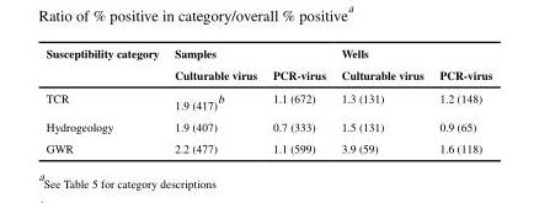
<table><thead><tr><td rowspan="2">Susceptibility category</td><td colspan="2">Samples</td><td colspan="2">Wells</td></tr><tr><td>Culturable virus</td><td>PCR-virus</td><td>Culturable virus</td><td>PCR-virus</td></tr></thead><tbody><tr><td>TCR</td><td>1.9 (417)<sup>b</sup></td><td>1.1 (672)</td><td>1.3 (131)</td><td>1.2 (148)</td></tr><tr><td>Hydrogeology</td><td>1.9 (407)</td><td>0.7 (333)</td><td>1.5 (131)</td><td>0.9 (65)</td></tr><tr><td>GWR</td><td>2.2 (477)</td><td>1.1 (599)</td><td>3.9 (59)</td><td>1.6 (118)</td></tr></tbody></table>